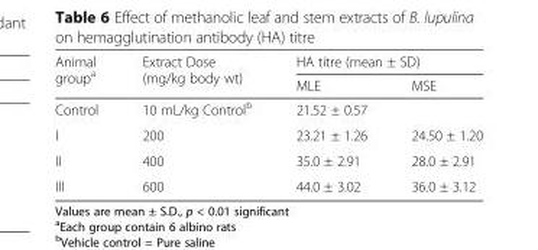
<table><thead><tr><td rowspan="2">Animal group<sup>a</sup></td><td rowspan="2">Extract Dose (mg/kg body wt)</td><td colspan="2">HA titre (mean ± SD)</td></tr><tr><td>MLE</td><td>MSE</td></tr></thead><tbody><tr><td>Control</td><td>10 mL/kg Control<sup>b</sup></td><td colspan="2">21.52 ± 0.57</td></tr><tr><td>I</td><td>200</td><td>23.21 ± 1.26</td><td>24.50 ± 1.20</td></tr><tr><td>II</td><td>400</td><td>35.0 ± 2.91</td><td>28.0 ± 2.91</td></tr><tr><td>III</td><td>600</td><td>44.0 ± 3.02</td><td>36.0 ± 3.12</td></tr></tbody></table>